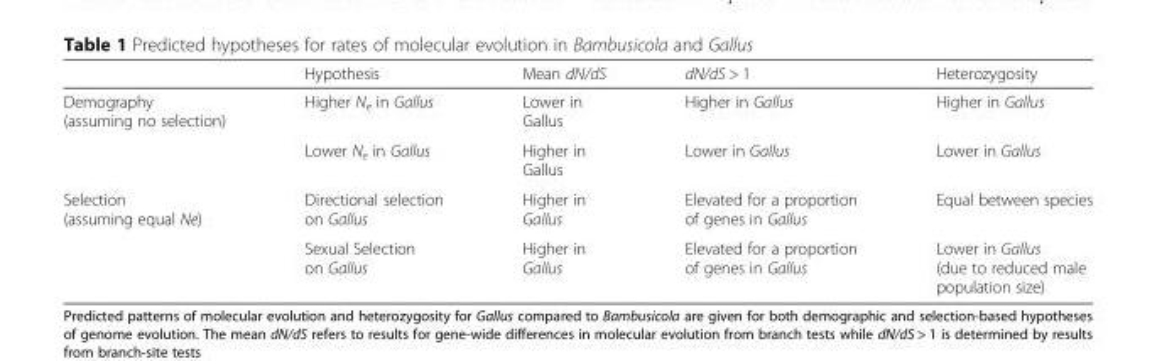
<table><thead><tr><td></td><td>Hypothesis</td><td>Mean dN/dS</td><td>dN/dS &gt; 1</td><td>Heterozygosity</td></tr></thead><tbody><tr><td rowspan="2">Demography (assuming no selection)</td><td>Higher N<sub>e</sub> in Gallus</td><td>Lower in Gallus</td><td>Higher in Gallus</td><td>Higher in Gallus</td></tr><tr><td>Lower N<sub>e</sub> in Gallus</td><td>Higher in Gallus</td><td>Lower in Gallus</td><td>Lower in Gallus</td></tr><tr><td rowspan="2">Selection (assuming equal Ne)</td><td>Directional selection on Gallus</td><td>Higher in Gallus</td><td>Elevated for a proportion of genes in Gallus</td><td>Equal between species</td></tr><tr><td>Sexual Selection on Gallus</td><td>Higher in Gallus</td><td>Elevated for a proportion of genes in Gallus</td><td>Lower in Gallus (due to reduced male population size)</td></tr></tbody></table>